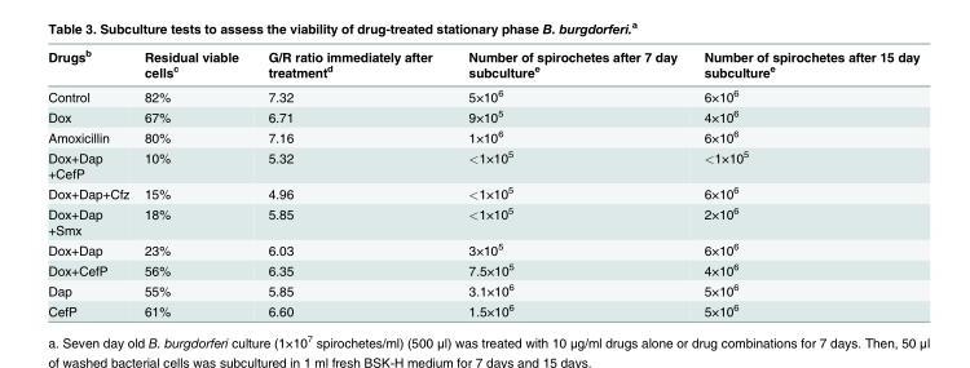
<table><thead><tr><td>Drugs<sup>b</sup></td><td>Residual viable cells<sup>c</sup></td><td>G/R ratio immediately after treatment<sup>d</sup></td><td>Number of spirochetes after 7 day subculture<sup>e</sup></td><td>Number of spirochetes after 15 day subculture<sup>e</sup></td></tr></thead><tbody><tr><td>Control</td><td>82%</td><td>7.32</td><td>5×10<sup>6</sup></td><td>6×10<sup>6</sup></td></tr><tr><td>Dox</td><td>67%</td><td>6.71</td><td>9×10<sup>5</sup></td><td>4×10<sup>6</sup></td></tr><tr><td>Amoxicillin</td><td>80%</td><td>7.16</td><td>1×10<sup>6</sup></td><td>6×10<sup>6</sup></td></tr><tr><td>Dox+Dap +CefP</td><td>10%</td><td>5.32</td><td>&lt;1×10<sup>5</sup></td><td>&lt;1×10<sup>5</sup></td></tr><tr><td>Dox+Dap+Cfz</td><td>15%</td><td>4.96</td><td>&lt;1×10<sup>5</sup></td><td>6×10<sup>6</sup></td></tr><tr><td>Dox+Dap +Smx</td><td>18%</td><td>5.85</td><td>&lt;1×10<sup>5</sup></td><td>2×10<sup>6</sup></td></tr><tr><td>Dox+Dap</td><td>23%</td><td>6.03</td><td>3×10<sup>5</sup></td><td>6×10<sup>6</sup></td></tr><tr><td>Dox+CefP</td><td>56%</td><td>6.35</td><td>7.5×10<sup>5</sup></td><td>4×10<sup>6</sup></td></tr><tr><td>Dap</td><td>55%</td><td>5.85</td><td>3.1×10<sup>6</sup></td><td>5×10<sup>6</sup></td></tr><tr><td>CefP</td><td>61%</td><td>6.60</td><td>1.5×10<sup>6</sup></td><td>5×10<sup>6</sup></td></tr></tbody></table>